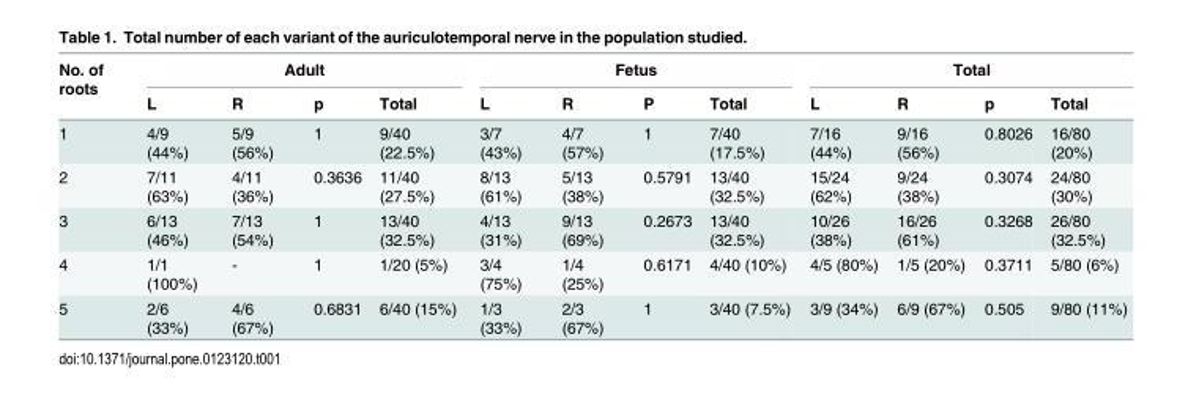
<table><thead><tr><td rowspan="2">No. of roots</td><td colspan="4">Adult</td><td colspan="4">Fetus</td><td colspan="4">Total</td></tr><tr><td>L</td><td>R</td><td>p</td><td>Total</td><td>L</td><td>R</td><td>P</td><td>Total</td><td>L</td><td>R</td><td>p</td><td>Total</td></tr></thead><tbody><tr><td>1</td><td>4/9 (44%)</td><td>5/9 (56%)</td><td>1</td><td>9/40 (22.5%)</td><td>3/7 (43%)</td><td>4/7 (57%)</td><td>1</td><td>7/40 (17.5%)</td><td>7/16 (44%)</td><td>9/16 (56%)</td><td>0.8026</td><td>16/80 (20%)</td></tr><tr><td>2</td><td>7/11 (63%)</td><td>4/11 (36%)</td><td>0.3636</td><td>11/40 (27.5%)</td><td>8/13 (61%)</td><td>5/13 (38%)</td><td>0.5791</td><td>13/40 (32.5%)</td><td>15/24 (62%)</td><td>9/24 (38%)</td><td>0.3074</td><td>24/80 (30%)</td></tr><tr><td>3</td><td>6/13 (46%)</td><td>7/13 (54%)</td><td>1</td><td>13/40 (32.5%)</td><td>4/13 (31%)</td><td>9/13 (69%)</td><td>0.2673</td><td>13/40 (32.5%)</td><td>10/26 (38%)</td><td>16/26 (61%)</td><td>0.3268</td><td>26/80 (32.5%)</td></tr><tr><td>4</td><td>1/1 (100%)</td><td>-</td><td>1</td><td>1/20 (5%)</td><td>3/4 (75%)</td><td>1/4 (25%)</td><td>0.6171</td><td>4/40 (10%)</td><td>4/5 (80%)</td><td>1/5 (20%)</td><td>0.3711</td><td>5/80 (6%)</td></tr><tr><td>5</td><td>2/6 (33%)</td><td>4/6 (67%)</td><td>0.6831</td><td>6/40 (15%)</td><td>1/3 (33%)</td><td>2/3 (67%)</td><td>1</td><td>3/40 (7.5%)</td><td>3/9 (34%)</td><td>6/9 (67%)</td><td>0.505</td><td>9/80 (11%)</td></tr></tbody></table>